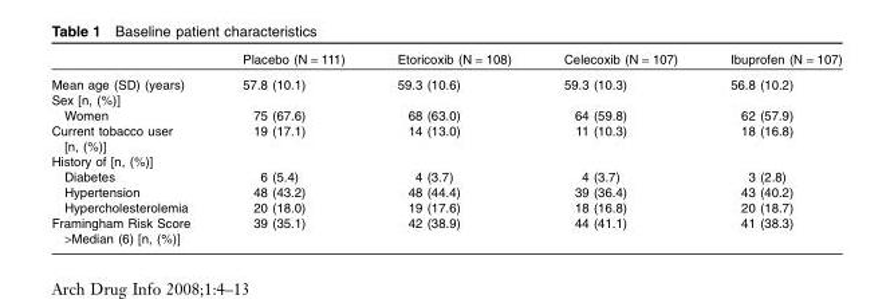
<table><thead><tr><td></td><td>Placebo (N = 111)</td><td>Etoricoxib (N = 108)</td><td>Celecoxib (N = 107)</td><td>Ibuprofen (N = 107)</td></tr></thead><tbody><tr><td>Mean age (SD) (years)</td><td>57.8 (10.1)</td><td>59.3 (10.6)</td><td>59.3 (10.3)</td><td>56.8 (10.2)</td></tr><tr><td colspan="5">Sex [n, (%)]</td></tr><tr><td>Women</td><td>75 (67.6)</td><td>68 (63.0)</td><td>64 (59.8)</td><td>62 (57.9)</td></tr><tr><td>Current tobacco user [n, (%)]</td><td>19 (17.1)</td><td>14 (13.0)</td><td>11 (10.3)</td><td>18 (16.8)</td></tr><tr><td colspan="5">History of [n, (%)]</td></tr><tr><td>Diabetes</td><td>6 (5.4)</td><td>4 (3.7)</td><td>4 (3.7)</td><td>3 (2.8)</td></tr><tr><td>Hypertension</td><td>48 (43.2)</td><td>48 (44.4)</td><td>39 (36.4)</td><td>43 (40.2)</td></tr><tr><td>Hypercholesterolemia</td><td>20 (18.0)</td><td>19 (17.6)</td><td>18 (16.8)</td><td>20 (18.7)</td></tr><tr><td>Framingham Risk Score &gt;Median (6) [n, (%)]</td><td>39 (35.1)</td><td>42 (38.9)</td><td>44 (41.1)</td><td>41 (38.3)</td></tr></tbody></table>